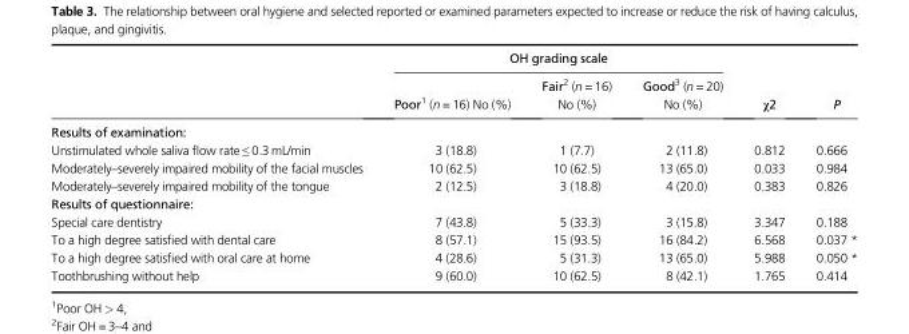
<table><thead><tr><td rowspan="2"></td><td colspan="3">OH grading scale</td><td rowspan="2">χ2</td><td rowspan="2">P</td></tr><tr><td>Poor1 (n = 16) No (%)</td><td>Fair2 (n = 16) No (%)</td><td>Good3 (n = 20) No (%)</td></tr></thead><tbody><tr><td colspan="6">Results of examination:</td></tr><tr><td>Unstimulated whole saliva flow rate ≤ 0.3 mL/min</td><td>3 (18.8)</td><td>1 (7.7)</td><td>2 (11.8)</td><td>0.812</td><td>0.666</td></tr><tr><td>Moderately–severely impaired mobility of the facial muscles</td><td>10 (62.5)</td><td>10 (62.5)</td><td>13 (65.0)</td><td>0.033</td><td>0.984</td></tr><tr><td>Moderately–severely impaired mobility of the tongue</td><td>2 (12.5)</td><td>3 (18.8)</td><td>4 (20.0)</td><td>0.383</td><td>0.826</td></tr><tr><td colspan="6">Results of questionnaire:</td></tr><tr><td>Special care dentistry</td><td>7 (43.8)</td><td>5 (33.3)</td><td>3 (15.8)</td><td>3.347</td><td>0.188</td></tr><tr><td>To a high degree satisfied with dental care</td><td>8 (57.1)</td><td>15 (93.5)</td><td>16 (84.2)</td><td>6.568</td><td>0.037 *</td></tr><tr><td>To a high degree satisfied with oral care at home</td><td>4 (28.6)</td><td>5 (31.3)</td><td>13 (65.0)</td><td>5.988</td><td>0.050 *</td></tr><tr><td>Toothbrushing without help</td><td>9 (60.0)</td><td>10 (62.5)</td><td>8 (42.1)</td><td>1.765</td><td>0.414</td></tr></tbody></table>